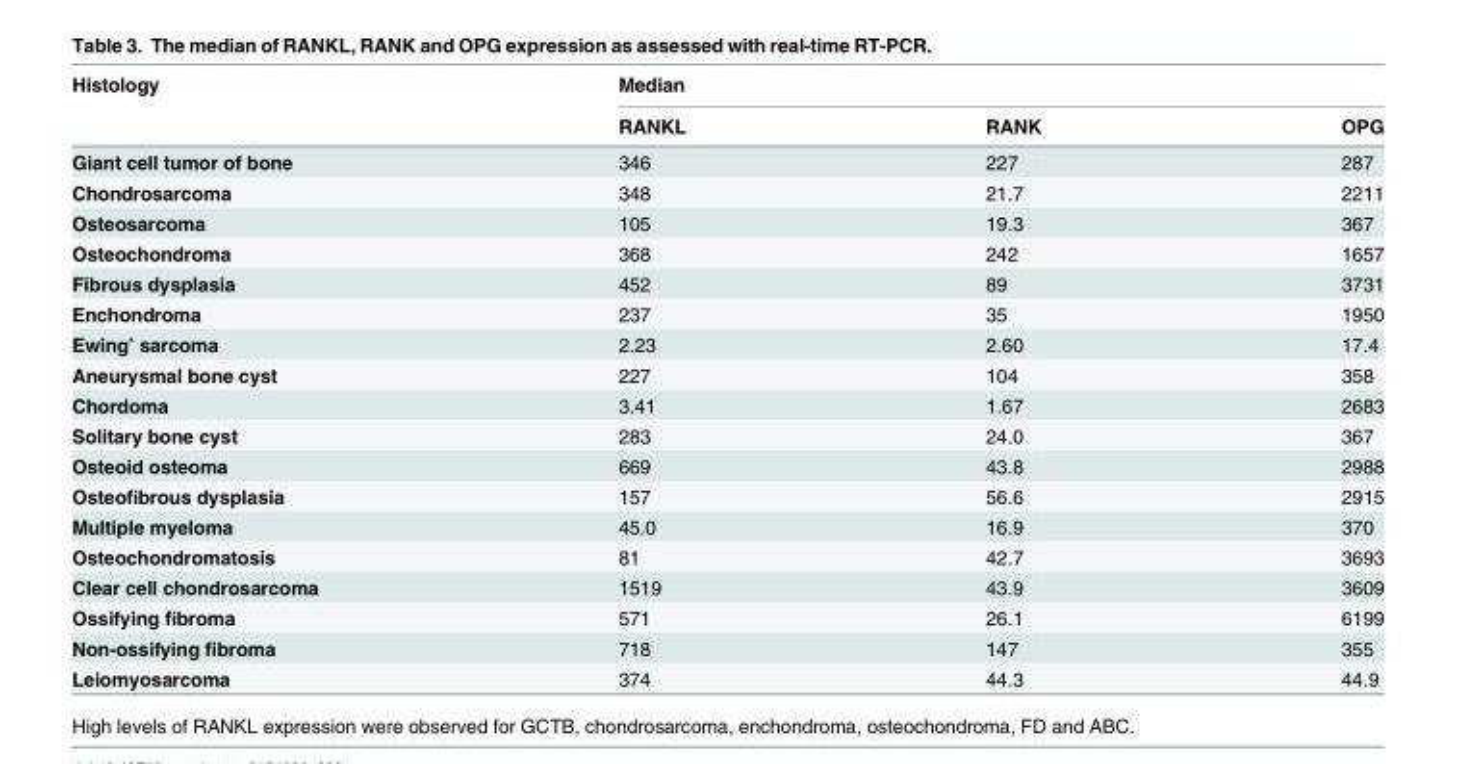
<table><thead><tr><td rowspan="2">Histology</td><td colspan="3">Median</td></tr><tr><td>RANKL</td><td>RANK</td><td>OPG</td></tr></thead><tbody><tr><td>Giant cell tumor of bone</td><td>346</td><td>227</td><td>287</td></tr><tr><td>Chondrosarcoma</td><td>348</td><td>21.7</td><td>2211</td></tr><tr><td>Osteosarcoma</td><td>105</td><td>19.3</td><td>367</td></tr><tr><td>Osteochondroma</td><td>368</td><td>242</td><td>1657</td></tr><tr><td>Fibrous dysplasia</td><td>452</td><td>89</td><td>3731</td></tr><tr><td>Enchondroma</td><td>237</td><td>35</td><td>1950</td></tr><tr><td>Ewing’ sarcoma</td><td>2.23</td><td>2.60</td><td>17.4</td></tr><tr><td>Aneurysmal bone cyst</td><td>227</td><td>104</td><td>358</td></tr><tr><td>Chordoma</td><td>3.41</td><td>1.67</td><td>2683</td></tr><tr><td>Solitary bone cyst</td><td>283</td><td>24.0</td><td>367</td></tr><tr><td>Osteoid osteoma</td><td>669</td><td>43.8</td><td>2988</td></tr><tr><td>Osteofibrous dysplasia</td><td>157</td><td>56.6</td><td>2915</td></tr><tr><td>Multiple myeloma</td><td>45.0</td><td>16.9</td><td>370</td></tr><tr><td>Osteochondromatosis</td><td>81</td><td>42.7</td><td>3693</td></tr><tr><td>Clear cell chondrosarcoma</td><td>1519</td><td>43.9</td><td>3609</td></tr><tr><td>Ossifying fibroma</td><td>571</td><td>26.1</td><td>6199</td></tr><tr><td>Non-ossifying fibroma</td><td>718</td><td>147</td><td>355</td></tr><tr><td>Leiomyosarcoma</td><td>374</td><td>44.3</td><td>44.9</td></tr></tbody></table>